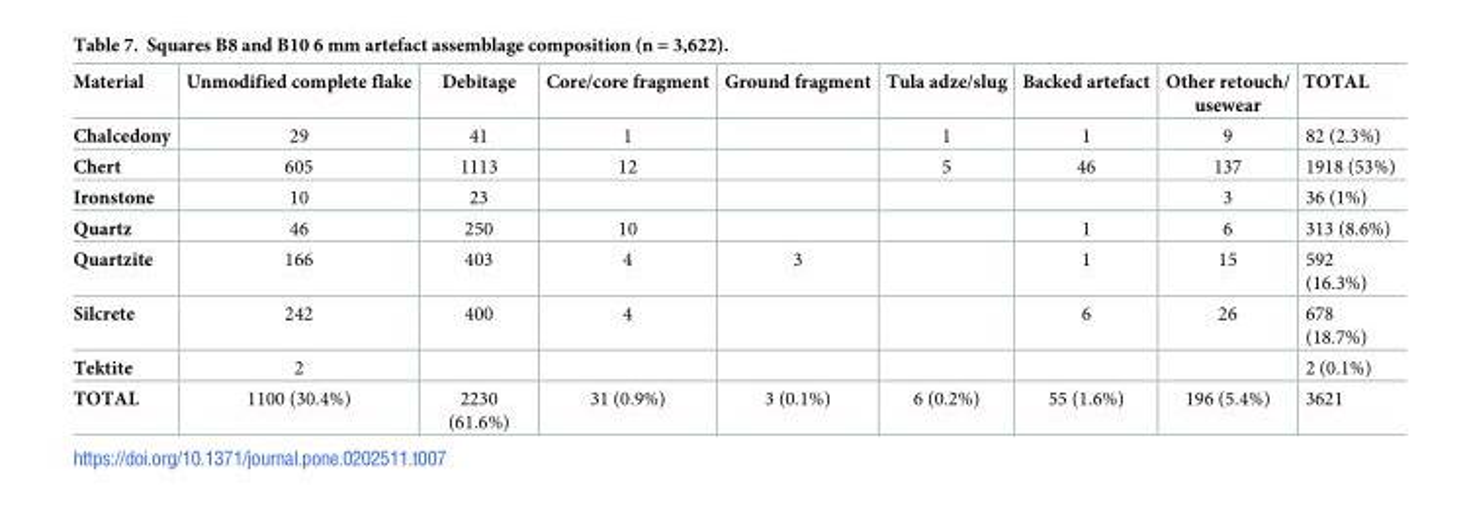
<table><thead><tr><td>Material</td><td>Unmodified complete flake</td><td>Debitage</td><td>Core/core fragment</td><td>Ground fragment</td><td>Tula adze/slug</td><td>Backed artefact</td><td>Other retouch/ usewear</td><td>TOTAL</td></tr></thead><tbody><tr><td>Chalcedony</td><td>29</td><td>41</td><td>1</td><td></td><td>1</td><td>1</td><td>9</td><td>82 (2.3%)</td></tr><tr><td>Chert</td><td>605</td><td>1113</td><td>12</td><td></td><td>5</td><td>46</td><td>137</td><td>1918 (53%)</td></tr><tr><td>Ironstone</td><td>10</td><td>23</td><td></td><td></td><td></td><td></td><td>3</td><td>36 (1%)</td></tr><tr><td>Quartz</td><td>46</td><td>250</td><td>10</td><td></td><td></td><td>1</td><td>6</td><td>313 (8.6%)</td></tr><tr><td>Quartzite</td><td>166</td><td>403</td><td>4</td><td>3</td><td></td><td>1</td><td>15</td><td>592 (16.3%)</td></tr><tr><td>Silcrete</td><td>242</td><td>400</td><td>4</td><td></td><td></td><td>6</td><td>26</td><td>678 (18.7%)</td></tr><tr><td>Tektite</td><td>2</td><td></td><td></td><td></td><td></td><td></td><td></td><td>2 (0.1%)</td></tr><tr><td>TOTAL</td><td>1100 (30.4%)</td><td>2230 (61.6%)</td><td>31 (0.9%)</td><td>3 (0.1%)</td><td>6 (0.2%)</td><td>55 (1.6%)</td><td>196 (5.4%)</td><td>3621</td></tr></tbody></table>